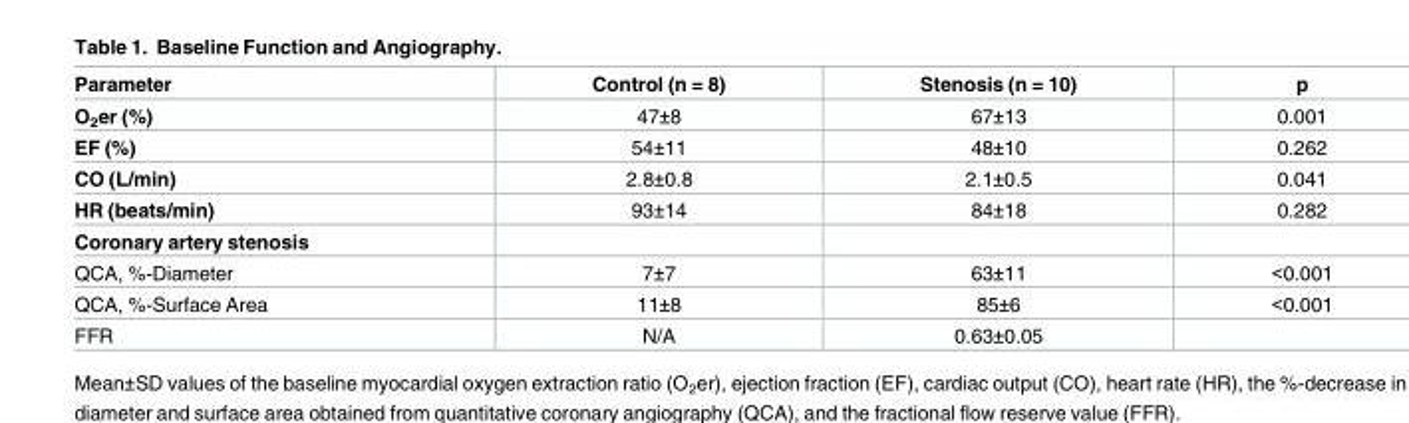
<table><thead><tr><td>Parameter</td><td>Control (n = 8)</td><td>Stenosis (n = 10)</td><td>p</td></tr></thead><tbody><tr><td>O<sub>2</sub>er (%)</td><td>47±8</td><td>67±13</td><td>0.001</td></tr><tr><td>EF (%)</td><td>54±11</td><td>48±10</td><td>0.262</td></tr><tr><td>CO (L/min)</td><td>2.8±0.8</td><td>2.1±0.5</td><td>0.041</td></tr><tr><td>HR (beats/min)</td><td>93±14</td><td>84±18</td><td>0.282</td></tr><tr><td colspan="4">Coronary artery stenosis</td></tr><tr><td>QCA, %-Diameter</td><td>7±7</td><td>63±11</td><td>&lt;0.001</td></tr><tr><td>QCA, %-Surface Area</td><td>11±8</td><td>85±6</td><td>&lt;0.001</td></tr><tr><td>FFR</td><td>N/A</td><td>0.63±0.05</td><td></td></tr></tbody></table>